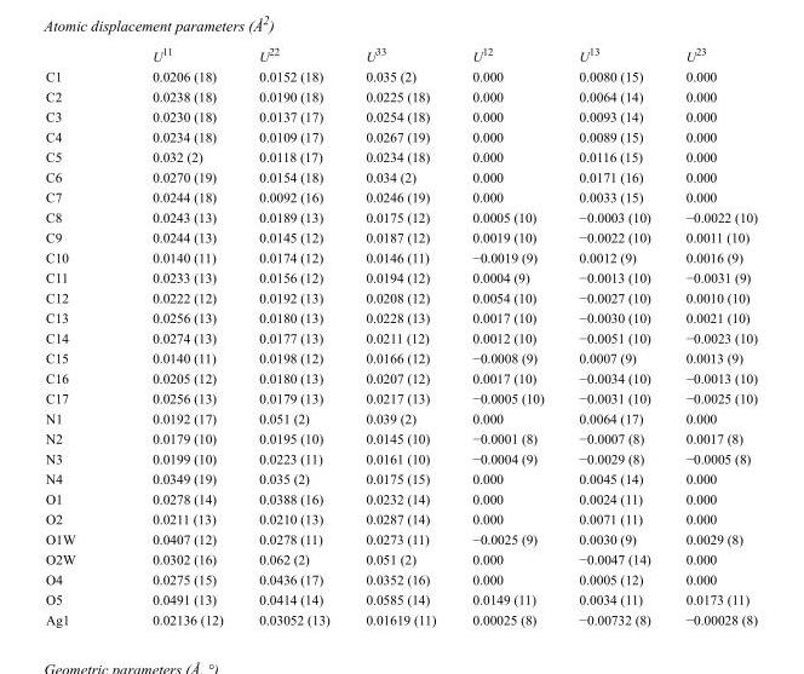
<table><thead><tr><td></td><td>U<sup>11</sup></td><td>U<sup>22</sup></td><td>U<sup>33</sup></td><td>U<sup>12</sup></td><td>U<sup>13</sup></td><td>U<sup>23</sup></td></tr></thead><tbody><tr><td>C1</td><td>0.0206 (18)</td><td>0.0152 (18)</td><td>0.035 (2)</td><td>0.000</td><td>0.0080 (15)</td><td>0.000</td></tr><tr><td>C2</td><td>0.0238 (18)</td><td>0.0190 (18)</td><td>0.0225 (18)</td><td>0.000</td><td>0.0064 (14)</td><td>0.000</td></tr><tr><td>C3</td><td>0.0230 (18)</td><td>0.0137 (17)</td><td>0.0254 (18)</td><td>0.000</td><td>0.0093 (14)</td><td>0.000</td></tr><tr><td>C4</td><td>0.0234 (18)</td><td>0.0109 (17)</td><td>0.0267 (19)</td><td>0.000</td><td>0.0089 (15)</td><td>0.000</td></tr><tr><td>C5</td><td>0.032 (2)</td><td>0.0118 (17)</td><td>0.0234 (18)</td><td>0.000</td><td>0.0116 (15)</td><td>0.000</td></tr><tr><td>C6</td><td>0.0270 (19)</td><td>0.0154 (18)</td><td>0.034 (2)</td><td>0.000</td><td>0.0171 (16)</td><td>0.000</td></tr><tr><td>C7</td><td>0.0244 (18)</td><td>0.0092 (16)</td><td>0.0246 (19)</td><td>0.000</td><td>0.0033 (15)</td><td>0.000</td></tr><tr><td>C8</td><td>0.0243 (13)</td><td>0.0189 (13)</td><td>0.0175 (12)</td><td>0.0005 (10)</td><td>−0.0003 (10)</td><td>−0.0022 (10)</td></tr><tr><td>C9</td><td>0.0244 (13)</td><td>0.0145 (12)</td><td>0.0187 (12)</td><td>0.0019 (10)</td><td>−0.0022 (10)</td><td>0.0011 (10)</td></tr><tr><td>C10</td><td>0.0140 (11)</td><td>0.0174 (12)</td><td>0.0146 (11)</td><td>−0.0019 (9)</td><td>0.0012 (9)</td><td>0.0016 (9)</td></tr><tr><td>C11</td><td>0.0233 (13)</td><td>0.0156 (12)</td><td>0.0194 (12)</td><td>0.0004 (9)</td><td>−0.0013 (10)</td><td>−0.0031 (9)</td></tr><tr><td>C12</td><td>0.0222 (12)</td><td>0.0192 (13)</td><td>0.0208 (12)</td><td>0.0054 (10)</td><td>−0.0027 (10)</td><td>0.0010 (10)</td></tr><tr><td>C13</td><td>0.0256 (13)</td><td>0.0180 (13)</td><td>0.0228 (13)</td><td>0.0017 (10)</td><td>−0.0030 (10)</td><td>0.0021 (10)</td></tr><tr><td>C14</td><td>0.0274 (13)</td><td>0.0177 (13)</td><td>0.0211 (12)</td><td>0.0012 (10)</td><td>−0.0051 (10)</td><td>−0.0023 (10)</td></tr><tr><td>C15</td><td>0.0140 (11)</td><td>0.0198 (12)</td><td>0.0166 (12)</td><td>−0.0008 (9)</td><td>0.0007 (9)</td><td>0.0013 (9)</td></tr><tr><td>C16</td><td>0.0205 (12)</td><td>0.0180 (13)</td><td>0.0207 (12)</td><td>0.0017 (10)</td><td>−0.0034 (10)</td><td>−0.0013 (10)</td></tr><tr><td>C17</td><td>0.0256 (13)</td><td>0.0179 (13)</td><td>0.0217 (13)</td><td>−0.0005 (10)</td><td>−0.0031 (10)</td><td>−0.0025 (10)</td></tr><tr><td>N1</td><td>0.0192 (17)</td><td>0.051 (2)</td><td>0.039 (2)</td><td>0.000</td><td>0.0064 (17)</td><td>0.000</td></tr><tr><td>N2</td><td>0.0179 (10)</td><td>0.0195 (10)</td><td>0.0145 (10)</td><td>−0.0001 (8)</td><td>−0.0007 (8)</td><td>0.0017 (8)</td></tr><tr><td>N3</td><td>0.0199 (10)</td><td>0.0223 (11)</td><td>0.0161 (10)</td><td>−0.0004 (9)</td><td>−0.0029 (8)</td><td>−0.0005 (8)</td></tr><tr><td>N4</td><td>0.0349 (19)</td><td>0.035 (2)</td><td>0.0175 (15)</td><td>0.000</td><td>0.0045 (14)</td><td>0.000</td></tr><tr><td>O1</td><td>0.0278 (14)</td><td>0.0388 (16)</td><td>0.0232 (14)</td><td>0.000</td><td>0.0024 (11)</td><td>0.000</td></tr><tr><td>O2</td><td>0.0211 (13)</td><td>0.0210 (13)</td><td>0.0287 (14)</td><td>0.000</td><td>0.0071 (11)</td><td>0.000</td></tr><tr><td>O1W</td><td>0.0407 (12)</td><td>0.0278 (11)</td><td>0.0273 (11)</td><td>−0.0025 (9)</td><td>0.0030 (9)</td><td>0.0029 (8)</td></tr><tr><td>O2W</td><td>0.0302 (16)</td><td>0.062 (2)</td><td>0.051 (2)</td><td>0.000</td><td>−0.0047 (14)</td><td>0.000</td></tr><tr><td>O4</td><td>0.0275 (15)</td><td>0.0436 (17)</td><td>0.0352 (16)</td><td>0.000</td><td>0.0005 (12)</td><td>0.000</td></tr><tr><td>O5</td><td>0.0491 (13)</td><td>0.0414 (14)</td><td>0.0585 (14)</td><td>0.0149 (11)</td><td>0.0034 (11)</td><td>0.0173 (11)</td></tr><tr><td>Ag1</td><td>0.02136 (12)</td><td>0.03052 (13)</td><td>0.01619 (11)</td><td>0.00025 (8)</td><td>−0.00732 (8)</td><td>−0.00028 (8)</td></tr></tbody></table>